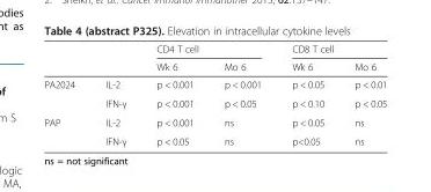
<table><thead><tr><td rowspan="2"></td><td rowspan="2"></td><td colspan="2">CD4 T cell</td><td colspan="2">CD8 T cell</td></tr><tr><td>Wk 6</td><td>Mo 6</td><td>Wk 6</td><td>Mo 6</td></tr></thead><tbody><tr><td rowspan="2">PA2024</td><td>IL-2</td><td>p &lt; 0.001</td><td>p &lt; 0.001</td><td>p &lt; 0.05</td><td>p &lt; 0.01</td></tr><tr><td>IFN-γ</td><td>p &lt; 0.001</td><td>p &lt; 0.05</td><td>p &lt; 0.10</td><td>p &lt; 0.05</td></tr><tr><td rowspan="2">PAP</td><td>IL-2</td><td>p &lt; 0.001</td><td>ns</td><td>p &lt; 0.05</td><td>ns</td></tr><tr><td>IFN-γ</td><td>p &lt; 0.05</td><td>ns</td><td>p&lt;0.05</td><td>ns</td></tr></tbody></table>